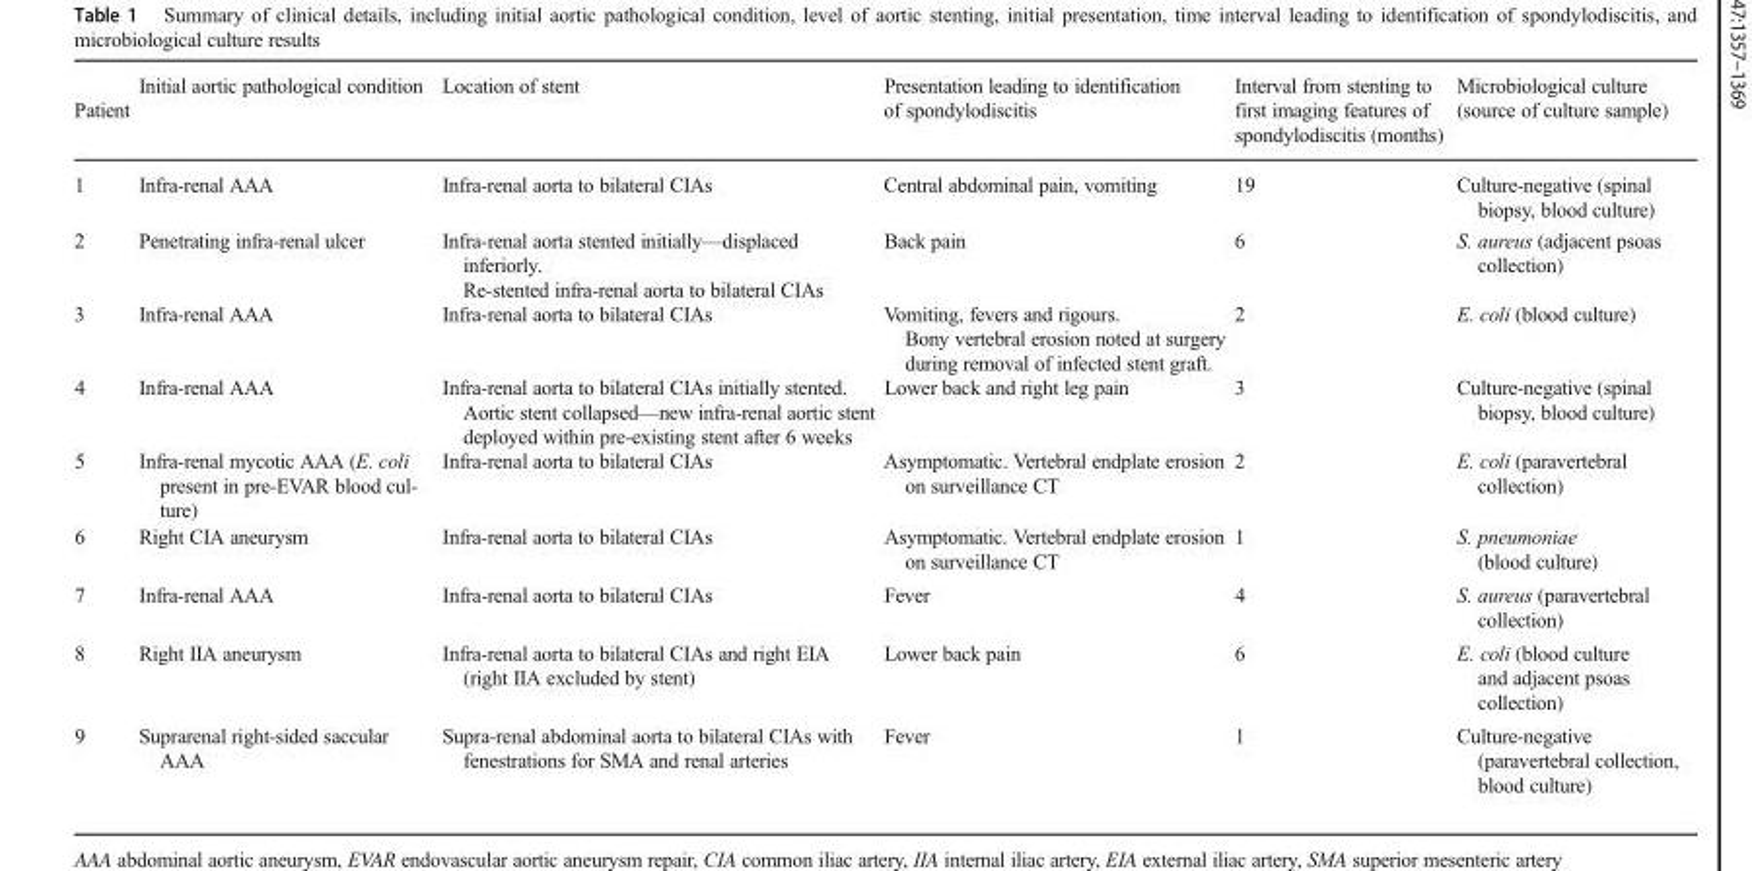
<table><thead><tr><td>Patient</td><td>Initial aortic pathological condition</td><td>Location of stent</td><td>Presentation leading to identification of spondylodiscitis</td><td>Interval from stenting to first imaging features of spondylodiscitis (months)</td><td>Microbiological culture (source of culture sample)</td></tr></thead><tbody><tr><td>1</td><td>Infra-renal AAA</td><td>Infra-renal aorta to bilateral CIAs</td><td>Central abdominal pain, vomiting</td><td>19</td><td>Culture-negative (spinal biopsy, blood culture)</td></tr><tr><td>2</td><td>Penetrating infra-renal ulcer</td><td>Infra-renal aorta stented initially—displaced inferiorly. Re-stented infra-renal aorta to bilateral CIAs</td><td>Back pain</td><td>6</td><td>S. aureus (adjacent psoas collection)</td></tr><tr><td>3</td><td>Infra-renal AAA</td><td>Infra-renal aorta to bilateral CIAs</td><td>Vomiting, fevers and rigours. Bony vertebral erosion noted at surgery during removal of infected stent graft.</td><td>2</td><td>E. coli (blood culture)</td></tr><tr><td>4</td><td>Infra-renal AAA</td><td>Infra-renal aorta to bilateral CIAs initially stented. Aortic stent collapsed—new infra-renal aortic stent deployed within pre-existing stent after 6 weeks</td><td>Lower back and right leg pain</td><td>3</td><td>Culture-negative (spinal biopsy, blood culture)</td></tr><tr><td>5</td><td>Infra-renal mycotic AAA (E. coli present in pre-EVAR blood cul- ture)</td><td>Infra-renal aorta to bilateral CIAs</td><td>Asymptomatic. Vertebral endplate erosion on surveillance CT</td><td>2</td><td>E. coli (paravertebral collection)</td></tr><tr><td>6</td><td>Right CIA aneurysm</td><td>Infra-renal aorta to bilateral CIAs</td><td>Asymptomatic. Vertebral endplate erosion on surveillance CT</td><td>1</td><td>S. pneumoniae (blood culture)</td></tr><tr><td>7</td><td>Infra-renal AAA</td><td>Infra-renal aorta to bilateral CIAs</td><td>Fever</td><td>4</td><td>S. aureus (paravertebral collection)</td></tr><tr><td>8</td><td>Right IIA aneurysm</td><td>Infra-renal aorta to bilateral CIAs and right EIA (right IIA excluded by stent)</td><td>Lower back pain</td><td>6</td><td>E. coli (blood culture and adjacent psoas collection)</td></tr><tr><td>9</td><td>Suprarenal right-sided saccular AAA</td><td>Supra-renal abdominal aorta to bilateral CIAs with fenestrations for SMA and renal arteries</td><td>Fever</td><td>1</td><td>Culture-negative (paravertebral collection, blood culture)</td></tr></tbody></table>